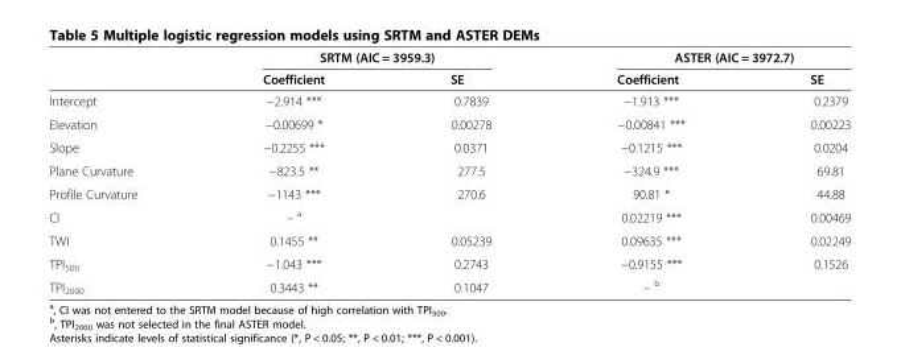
<table><thead><tr><td rowspan="2"></td><td rowspan="2">SRTM (AIC = 3959.3) Coefficient</td><td rowspan="2">SE</td><td rowspan="2">ASTER (AIC = 3972.7) Coefficient</td><td rowspan="2">SE</td></tr><tr></tr></thead><tbody><tr><td>Intercept</td><td>−2.914 ***</td><td>0.7839</td><td>−1.913 ***</td><td>0.2379</td></tr><tr><td>Elevation</td><td>−0.00699 *</td><td>0.00278</td><td>−0.00841 ***</td><td>0.00223</td></tr><tr><td>Slope</td><td>−0.2255 ***</td><td>0.0371</td><td>−0.1215 ***</td><td>0.0204</td></tr><tr><td>Plane Curvature</td><td>−823.5 **</td><td>277.5</td><td>−324.9 ***</td><td>69.81</td></tr><tr><td>Profile Curvature</td><td>−1143 ***</td><td>270.6</td><td>90.81 *</td><td>44.88</td></tr><tr><td>CI</td><td>– <sup>a</sup></td><td></td><td>0.02219 ***</td><td>0.00469</td></tr><tr><td>TWI</td><td>0.1455 **</td><td>0.05239</td><td>0.09635 ***</td><td>0.02249</td></tr><tr><td>TPI<sub>500</sub></td><td>−1.043 ***</td><td>0.2743</td><td>−0.9155 ***</td><td>0.1526</td></tr><tr><td>TPI<sub>2000</sub></td><td>0.3443 **</td><td>0.1047</td><td>– <sup>b</sup></td><td></td></tr></tbody></table>